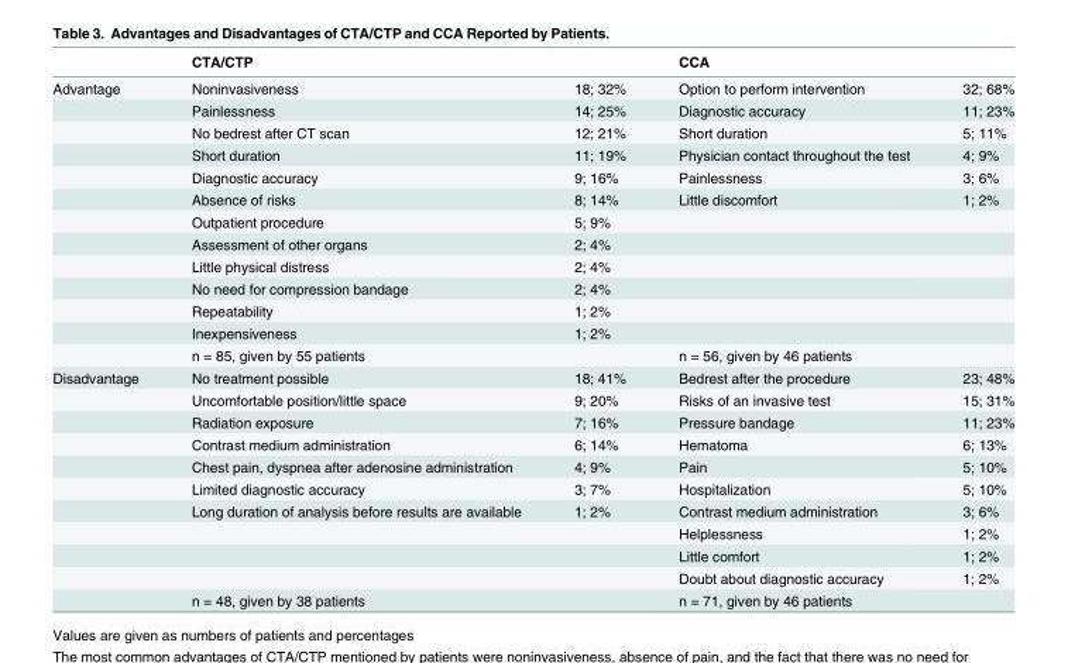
<table><thead><tr><td rowspan="2">Advantage</td><td colspan="2">CTA/CTP</td><td colspan="2">CCA</td></tr><tr><td>Noninvasiveness</td><td>18; 32%</td><td>Option to perform intervention</td><td>32; 68%</td></tr></thead><tbody><tr><td></td><td>Painlessness</td><td>14; 25%</td><td>Diagnostic accuracy</td><td>11; 23%</td></tr><tr><td></td><td>No bedrest after CT scan</td><td>12; 21%</td><td>Short duration</td><td>5; 11%</td></tr><tr><td></td><td>Short duration</td><td>11; 19%</td><td>Physician contact throughout the test</td><td>4; 9%</td></tr><tr><td></td><td>Diagnostic accuracy</td><td>9; 16%</td><td>Painlessness</td><td>3; 6%</td></tr><tr><td></td><td>Absence of risks</td><td>8; 14%</td><td>Little discomfort</td><td>1; 2%</td></tr><tr><td></td><td>Outpatient procedure</td><td>5; 9%</td><td></td><td></td></tr><tr><td></td><td>Assessment of other organs</td><td>2; 4%</td><td></td><td></td></tr><tr><td></td><td>Little physical distress</td><td>2; 4%</td><td></td><td></td></tr><tr><td></td><td>No need for compression bandage</td><td>2; 4%</td><td></td><td></td></tr><tr><td></td><td>Repeatability</td><td>1; 2%</td><td></td><td></td></tr><tr><td></td><td>Inexpensiveness</td><td>1; 2%</td><td></td><td></td></tr><tr><td></td><td colspan="2">n = 85, given by 55 patients</td><td colspan="2">n = 56, given by 46 patients</td></tr><tr><td rowspan="11">Disadvantage</td><td>No treatment possible</td><td>18; 41%</td><td>Bedrest after the procedure</td><td>23; 48%</td></tr><tr><td>Uncomfortable position/little space</td><td>9; 20%</td><td>Risks of an invasive test</td><td>15; 31%</td></tr><tr><td>Radiation exposure</td><td>7; 16%</td><td>Pressure bandage</td><td>11; 23%</td></tr><tr><td>Contrast medium administration</td><td>6; 14%</td><td>Hematoma</td><td>6; 13%</td></tr><tr><td>Chest pain, dyspnea after adenosine administration</td><td>4; 9%</td><td>Pain</td><td>5; 10%</td></tr><tr><td>Limited diagnostic accuracy</td><td>3; 7%</td><td>Hospitalization</td><td>5; 10%</td></tr><tr><td>Long duration of analysis before results are available</td><td>1; 2%</td><td>Contrast medium administration</td><td>3; 6%</td></tr><tr><td></td><td></td><td>Helplessness</td><td>1; 2%</td></tr><tr><td></td><td></td><td>Little comfort</td><td>1; 2%</td></tr><tr><td></td><td></td><td>Doubt about diagnostic accuracy</td><td>1; 2%</td></tr><tr><td colspan="2">n = 48, given by 38 patients</td><td colspan="2">n = 71, given by 46 patients</td></tr></tbody></table>